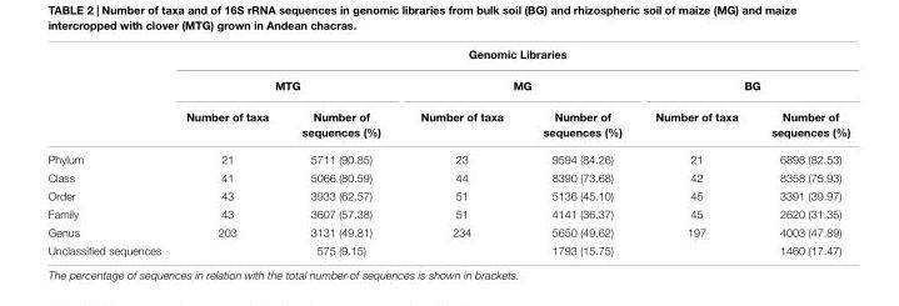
<table><thead><tr><td rowspan="3"></td><td colspan="6">Genomic Libraries</td></tr><tr><td colspan="2">MTG</td><td colspan="2">MG</td><td colspan="2">BG</td></tr><tr><td>Number of taxa</td><td>Number of sequences (%)</td><td>Number of taxa</td><td>Number of sequences (%)</td><td>Number of taxa</td><td>Number of sequences (%)</td></tr></thead><tbody><tr><td>Phylum</td><td>21</td><td>5711 (90.85)</td><td>23</td><td>9594 (84.26)</td><td>21</td><td>6898 (82.53)</td></tr><tr><td>Class</td><td>41</td><td>5066 (80.59)</td><td>44</td><td>8390 (73.68)</td><td>42</td><td>8358 (75.93)</td></tr><tr><td>Order</td><td>43</td><td>3933 (62.57)</td><td>51</td><td>5136 (45.10)</td><td>45</td><td>3391 (39.97)</td></tr><tr><td>Family</td><td>43</td><td>3607 (57.38)</td><td>51</td><td>4141 (36.37)</td><td>45</td><td>2620 (31.35)</td></tr><tr><td>Genus</td><td>203</td><td>3131 (49.81)</td><td>234</td><td>5650 (49.62)</td><td>197</td><td>4003 (47.89)</td></tr><tr><td>Unclassified sequences</td><td></td><td>575 (9.15)</td><td></td><td>1793 (15.75)</td><td></td><td>1460 (17.47)</td></tr></tbody></table>